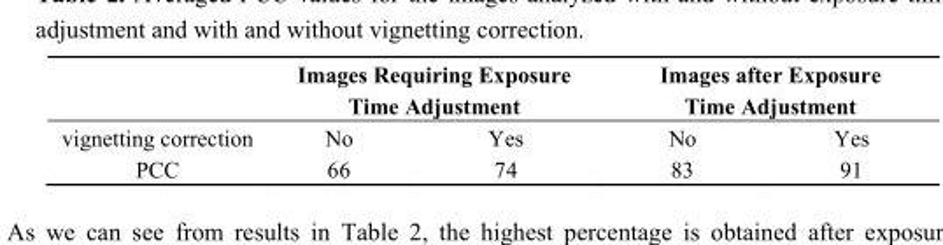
<table><thead><tr><td rowspan="2">vignetting correction</td><td colspan="2">Images Requiring Exposure Time Adjustment</td><td colspan="2">Images after Exposure Time Adjustment</td></tr><tr><td>No</td><td>Yes</td><td>No</td><td>Yes</td></tr></thead><tbody><tr><td>PCC</td><td>66</td><td>74</td><td>83</td><td>91</td></tr></tbody></table>